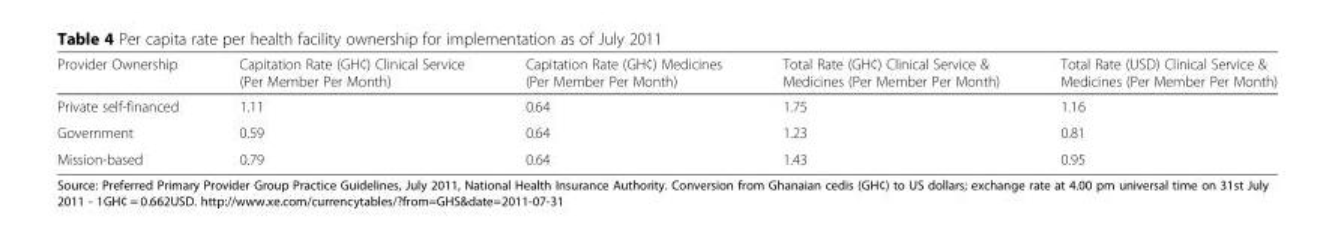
<table><thead><tr><td>Provider Ownership</td><td>Capitation Rate (GH¢) Clinical Service (Per Member Per Month)</td><td>Capitation Rate (GH¢) Medicines (Per Member Per Month)</td><td>Total Rate (GH¢) Clinical Service &amp; Medicines (Per Member Per Month)</td><td>Total Rate (USD) Clinical Service &amp; Medicines (Per Member Per Month)</td></tr></thead><tbody><tr><td>Private self-financed</td><td>1.11</td><td>0.64</td><td>1.75</td><td>1.16</td></tr><tr><td>Government</td><td>0.59</td><td>0.64</td><td>1.23</td><td>0.81</td></tr><tr><td>Mission-based</td><td>0.79</td><td>0.64</td><td>1.43</td><td>0.95</td></tr></tbody></table>